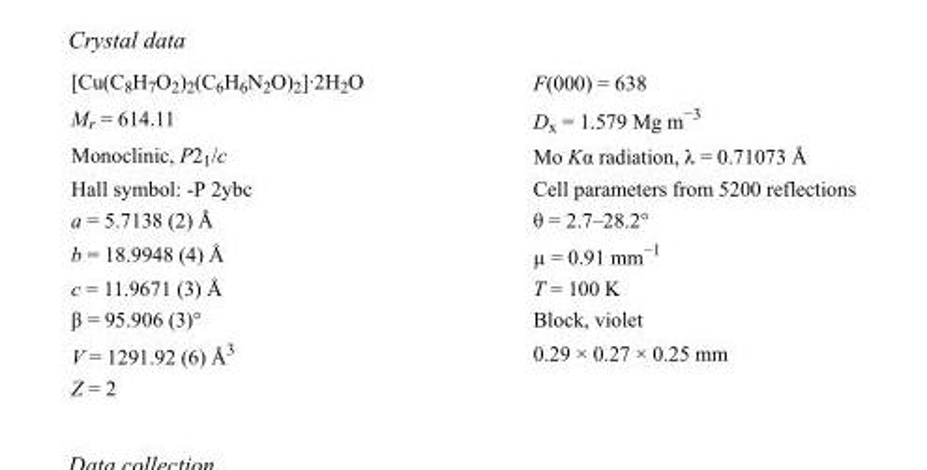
<table><tbody><tr><td>[Cu(C<sub>8</sub>H<sub>7</sub>O<sub>2</sub>)<sub>2</sub>(C<sub>6</sub>H<sub>6</sub>N<sub>2</sub>O)<sub>2</sub>]·2H<sub>2</sub>O</td><td>F(000) = 638</td></tr><tr><td>M<sub>r</sub> = 614.11</td><td>D<sub>x</sub> = 1.579 Mg m<sup>−3</sup></td></tr><tr><td>Monoclinic, P2<sub>1</sub>/c</td><td>Mo Kα radiation, λ = 0.71073 Å</td></tr><tr><td>Hall symbol: -P 2ybc</td><td>Cell parameters from 5200 reflections</td></tr><tr><td>a = 5.7138 (2) Å</td><td>θ = 2.7–28.2°</td></tr><tr><td>b = 18.9948 (4) Å</td><td>µ = 0.91 mm<sup>−1</sup></td></tr><tr><td>c = 11.9671 (3) Å</td><td>T = 100 K</td></tr><tr><td>β = 95.906 (3)°</td><td>Block, violet</td></tr><tr><td>V = 1291.92 (6) Å<sup>3</sup></td><td>0.29 × 0.27 × 0.25 mm</td></tr><tr><td>Z = 2</td><td></td></tr></tbody></table>